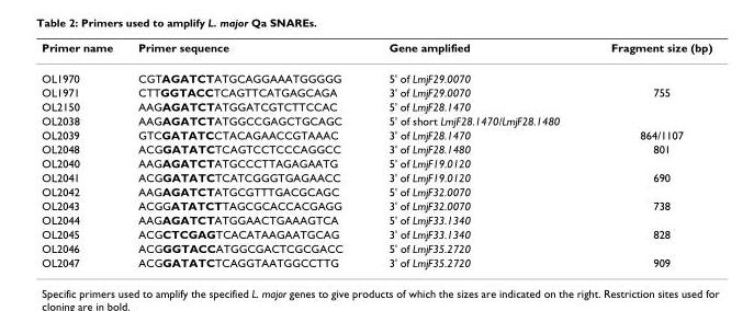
<table><thead><tr><td>Primer name</td><td>Primer sequence</td><td>Gene amplified</td><td>Fragment size (bp)</td></tr></thead><tbody><tr><td>OL1970</td><td>CGTAGATCTATGCAGGAAATGGGGG</td><td>5&#x27; of LmjF29.0070</td><td></td></tr><tr><td>OL1971</td><td>CTTGGTACCTCAGTTCATGAGCAGA</td><td>3&#x27; of LmjF29.0070</td><td>755</td></tr><tr><td>OL2150</td><td>AAGAGATCTATGGATCGTCTTCCAC</td><td>5&#x27; of LmjF28.1470</td><td></td></tr><tr><td>OL2038</td><td>AAGAGATCTATGGCCGAGCTGCAGC</td><td>5&#x27; of short LmjF28.1470/LmjF28.1480</td><td></td></tr><tr><td>OL2039</td><td>GTCGATATCCTACAGAACCGTAAAC</td><td>3&#x27; of LmjF28.1470</td><td>864/1107</td></tr><tr><td>OL2048</td><td>ACGGATATCTCAGTCCTCCCAGGCC</td><td>3&#x27; of LmjF28.1480</td><td>801</td></tr><tr><td>OL2040</td><td>AAGAGATCTATGCCCTTAGAGAATG</td><td>5&#x27; of LmjF19.0120</td><td></td></tr><tr><td>OL2041</td><td>ACGGATATCTCATCGGGTGAGAACC</td><td>3&#x27; of LmjF19.0120</td><td>690</td></tr><tr><td>OL2042</td><td>AAGAGATCTATGCGTTTGACGCAGC</td><td>5&#x27; of LmjF32.0070</td><td></td></tr><tr><td>OL2043</td><td>ACGGATATCTTAGCGCACCACGAGG</td><td>3&#x27; of LmjF32.0070</td><td>738</td></tr><tr><td>OL2044</td><td>AAGAGATCTATGGAACTGAAAGTCA</td><td>5&#x27; of LmjF33.1340</td><td></td></tr><tr><td>OL2045</td><td>ACGCTCGAGTCACATAAGAATGCAG</td><td>3&#x27; of LmjF33.1340</td><td>828</td></tr><tr><td>OL2046</td><td>ACGGGTACCATGGCGACTCGCGACC</td><td>5&#x27; of LmjF35.2720</td><td></td></tr><tr><td>OL2047</td><td>ACGGATATCTCAGGTAATGGCCTTG</td><td>3&#x27; of LmjF35.2720</td><td>909</td></tr></tbody></table>